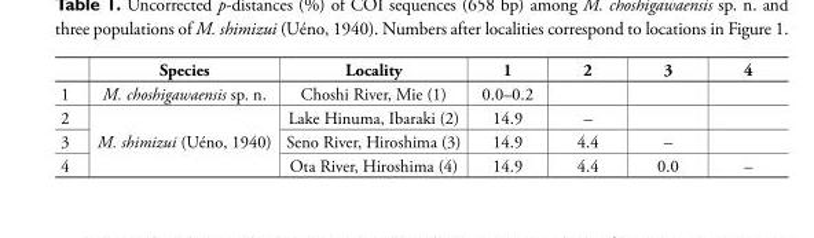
<table><thead><tr><td></td><td>Species</td><td>Locality</td><td>1</td><td>2</td><td>3</td><td>4</td></tr></thead><tbody><tr><td>1</td><td>M. choshigawaensis sp. n.</td><td>Choshi River, Mie (1)</td><td>0.0–0.2</td><td></td><td></td><td></td></tr><tr><td>2</td><td rowspan="3">M. shimizui (Uéno, 1940)</td><td>Lake Hinuma, Ibaraki (2)</td><td>14.9</td><td>–</td><td></td><td></td></tr><tr><td>3</td><td>Seno River, Hiroshima (3)</td><td>14.9</td><td>4.4</td><td>–</td><td></td></tr><tr><td>4</td><td>Ota River, Hiroshima (4)</td><td>14.9</td><td>4.4</td><td>0.0</td><td>–</td></tr></tbody></table>